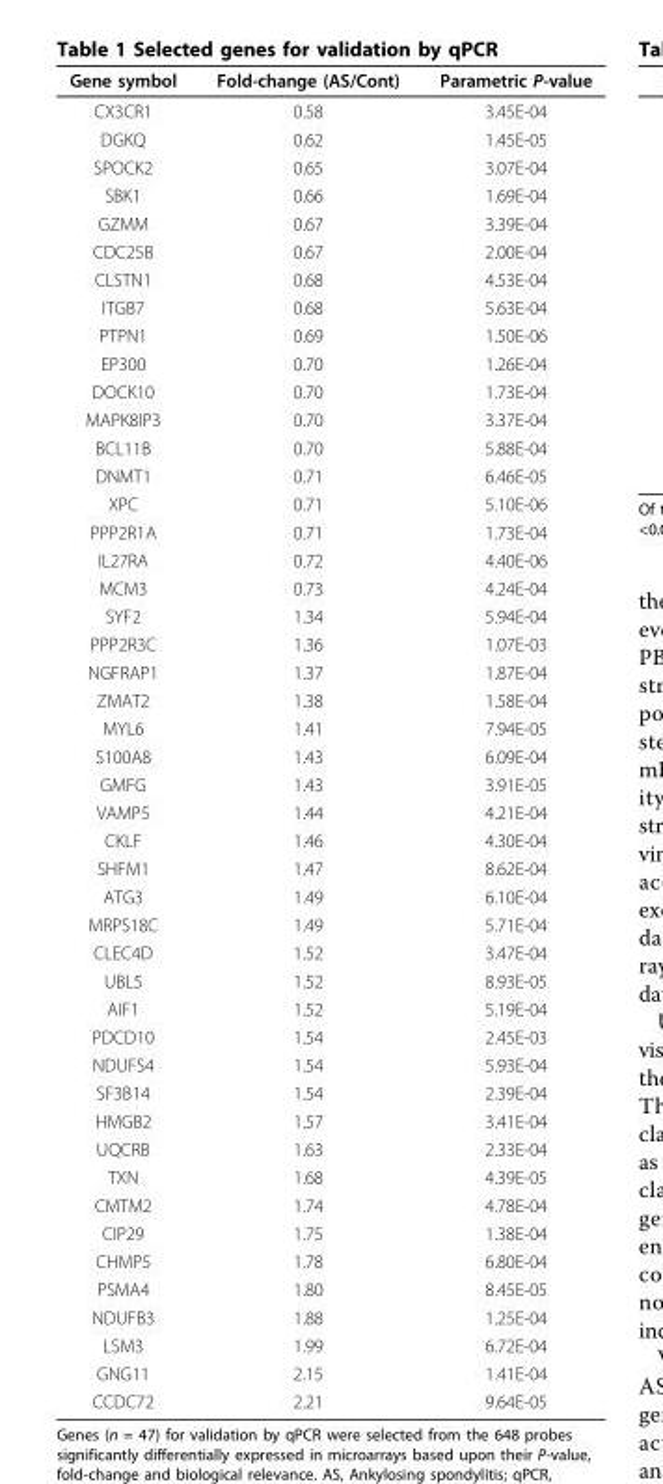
<table><thead><tr><td>Gene symbol</td><td>Fold-change (AS/Cont)</td><td>Parametric P-value</td></tr></thead><tbody><tr><td>CX3CR1</td><td>0.58</td><td>3.45E-04</td></tr><tr><td>DGKQ</td><td>0.62</td><td>1.45E-05</td></tr><tr><td>SPOCK2</td><td>0.65</td><td>3.07E-04</td></tr><tr><td>SBK1</td><td>0.66</td><td>1.69E-04</td></tr><tr><td>GZMM</td><td>0.67</td><td>3.39E-04</td></tr><tr><td>CDC25B</td><td>0.67</td><td>2.00E-04</td></tr><tr><td>CLSTN1</td><td>0.68</td><td>4.53E-04</td></tr><tr><td>ITGB7</td><td>0.68</td><td>5.63E-04</td></tr><tr><td>PTPN1</td><td>0.69</td><td>1.50E-06</td></tr><tr><td>EP300</td><td>0.70</td><td>1.26E-04</td></tr><tr><td>DOCK10</td><td>0.70</td><td>1.73E-04</td></tr><tr><td>MAPK8IP3</td><td>0.70</td><td>3.37E-04</td></tr><tr><td>BCL11B</td><td>0.70</td><td>5.88E-04</td></tr><tr><td>DNMT1</td><td>0.71</td><td>6.46E-05</td></tr><tr><td>XPC</td><td>0.71</td><td>5.10E-06</td></tr><tr><td>PPP2R1A</td><td>0.71</td><td>1.73E-04</td></tr><tr><td>IL27RA</td><td>0.72</td><td>4.40E-06</td></tr><tr><td>MCM3</td><td>0.73</td><td>4.24E-04</td></tr><tr><td>SYF2</td><td>1.34</td><td>5.94E-04</td></tr><tr><td>PPP2R3C</td><td>1.36</td><td>1.07E-03</td></tr><tr><td>NGFRAP1</td><td>1.37</td><td>1.87E-04</td></tr><tr><td>ZMAT2</td><td>1.38</td><td>1.58E-04</td></tr><tr><td>MYL6</td><td>1.41</td><td>7.94E-05</td></tr><tr><td>S100A8</td><td>1.43</td><td>6.09E-04</td></tr><tr><td>GMFG</td><td>1.43</td><td>3.91E-05</td></tr><tr><td>VAMP5</td><td>1.44</td><td>4.21E-04</td></tr><tr><td>CKLF</td><td>1.46</td><td>4.30E-04</td></tr><tr><td>SHFM1</td><td>1.47</td><td>8.62E-04</td></tr><tr><td>ATG3</td><td>1.49</td><td>6.10E-04</td></tr><tr><td>MRPS18C</td><td>1.49</td><td>5.71E-04</td></tr><tr><td>CLEC4D</td><td>1.52</td><td>3.47E-04</td></tr><tr><td>UBL5</td><td>1.52</td><td>8.93E-05</td></tr><tr><td>AIF1</td><td>1.52</td><td>5.19E-04</td></tr><tr><td>PDCD10</td><td>1.54</td><td>2.45E-03</td></tr><tr><td>NDUFS4</td><td>1.54</td><td>5.93E-04</td></tr><tr><td>SF3B14</td><td>1.54</td><td>2.39E-04</td></tr><tr><td>HMGB2</td><td>1.57</td><td>3.41E-04</td></tr><tr><td>UQCRB</td><td>1.63</td><td>2.33E-04</td></tr><tr><td>TXN</td><td>1.68</td><td>4.39E-05</td></tr><tr><td>CMTM2</td><td>1.74</td><td>4.78E-04</td></tr><tr><td>CIP29</td><td>1.75</td><td>1.38E-04</td></tr><tr><td>CHMP5</td><td>1.78</td><td>6.80E-04</td></tr><tr><td>PSMA4</td><td>1.80</td><td>8.45E-05</td></tr><tr><td>NDUFB3</td><td>1.88</td><td>1.25E-04</td></tr><tr><td>LSM3</td><td>1.99</td><td>6.72E-04</td></tr><tr><td>GNG11</td><td>2.15</td><td>1.41E-04</td></tr><tr><td>CCDC72</td><td>2.21</td><td>9.64E-05</td></tr></tbody></table>